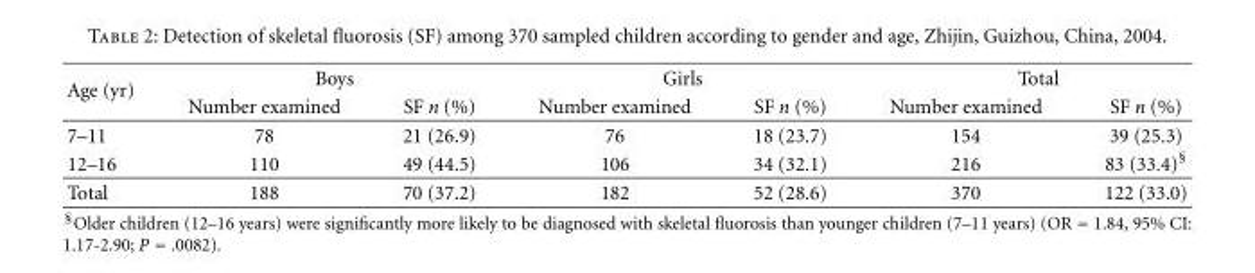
<table><thead><tr><td rowspan="2">Age (yr)</td><td colspan="2">Boys</td><td colspan="2">Girls</td><td colspan="2">Total</td></tr><tr><td>Number examined</td><td>SF n (%)</td><td>Number examined</td><td>SF n (%)</td><td>Number examined</td><td>SF n (%)</td></tr></thead><tbody><tr><td>7–11</td><td>78</td><td>21 (26.9)</td><td>76</td><td>18 (23.7)</td><td>154</td><td>39 (25.3)</td></tr><tr><td>12–16</td><td>110</td><td>49 (44.5)</td><td>106</td><td>34 (32.1)</td><td>216</td><td>83 (33.4)<sup>§</sup></td></tr><tr><td>Total</td><td>188</td><td>70 (37.2)</td><td>182</td><td>52 (28.6)</td><td>370</td><td>122 (33.0)</td></tr></tbody></table>